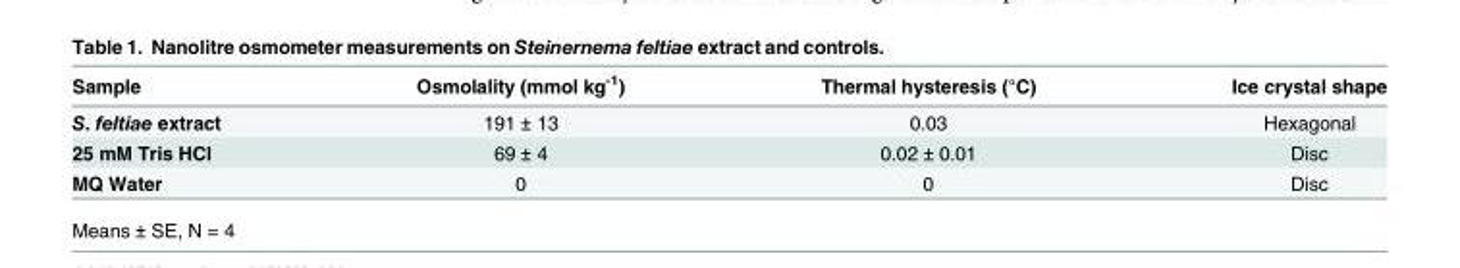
<table><thead><tr><td>Sample</td><td>Osmolality (mmol kg<sup>-1</sup>)</td><td>Thermal hysteresis (°C)</td><td>Ice crystal shape</td></tr></thead><tbody><tr><td>S. feltiae extract</td><td>191 ± 13</td><td>0.03</td><td>Hexagonal</td></tr><tr><td>25 mM Tris HCl</td><td>69 ± 4</td><td>0.02 ± 0.01</td><td>Disc</td></tr><tr><td>MQ Water</td><td>0</td><td>0</td><td>Disc</td></tr></tbody></table>